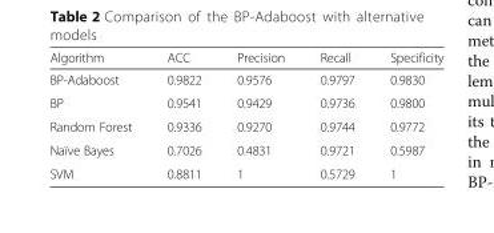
<table><thead><tr><td>Algorithm</td><td>ACC</td><td>Precision</td><td>Recall</td><td>Specificity</td></tr></thead><tbody><tr><td>BP-Adaboost</td><td>0.9822</td><td>0.9576</td><td>0.9797</td><td>0.9830</td></tr><tr><td>BP</td><td>0.9541</td><td>0.9429</td><td>0.9736</td><td>0.9800</td></tr><tr><td>Random Forest</td><td>0.9336</td><td>0.9270</td><td>0.9744</td><td>0.9772</td></tr><tr><td>Naïve Bayes</td><td>0.7026</td><td>0.4831</td><td>0.9721</td><td>0.5987</td></tr><tr><td>SVM</td><td>0.8811</td><td>1</td><td>0.5729</td><td>1</td></tr></tbody></table>